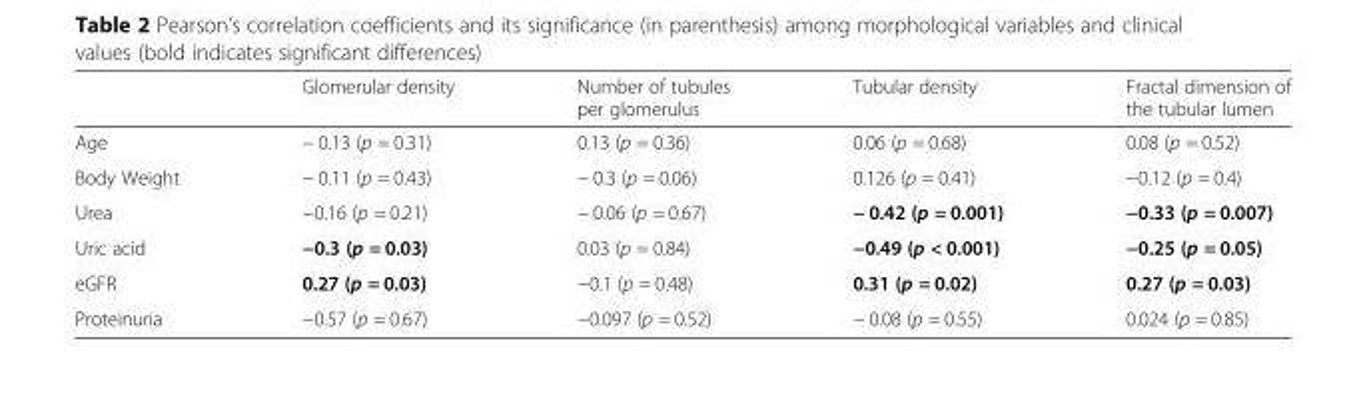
<table><thead><tr><td></td><td>Glomerular density</td><td>Number of tubules per glomerulus</td><td>Tubular density</td><td>Fractal dimension of the tubular lumen</td></tr></thead><tbody><tr><td>Age</td><td>− 0.13 (p = 0.31)</td><td>0.13 (p = 0.36)</td><td>0.06 (p = 0.68)</td><td>0.08 (p = 0.52)</td></tr><tr><td>Body Weight</td><td>− 0.11 (p = 0.43)</td><td>− 0.3 (p = 0.06)</td><td>0.126 (p = 0.41)</td><td>−0.12 (p = 0.4)</td></tr><tr><td>Urea</td><td>−0.16 (p = 0.21)</td><td>− 0.06 (p = 0.67)</td><td>− 0.42 (p = 0.001)</td><td>−0.33 (p = 0.007)</td></tr><tr><td>Uric acid</td><td>−0.3 (p = 0.03)</td><td>0.03 (p = 0.84)</td><td>−0.49 (p &lt; 0.001)</td><td>−0.25 (p = 0.05)</td></tr><tr><td>eGFR</td><td>0.27 (p = 0.03)</td><td>−0.1 (p = 0.48)</td><td>0.31 (p = 0.02)</td><td>0.27 (p = 0.03)</td></tr><tr><td>Proteinuria</td><td>−0.57 (p = 0.67)</td><td>−0.097 (p = 0.52)</td><td>− 0.08 (p = 0.55)</td><td>0.024 (p = 0.85)</td></tr></tbody></table>